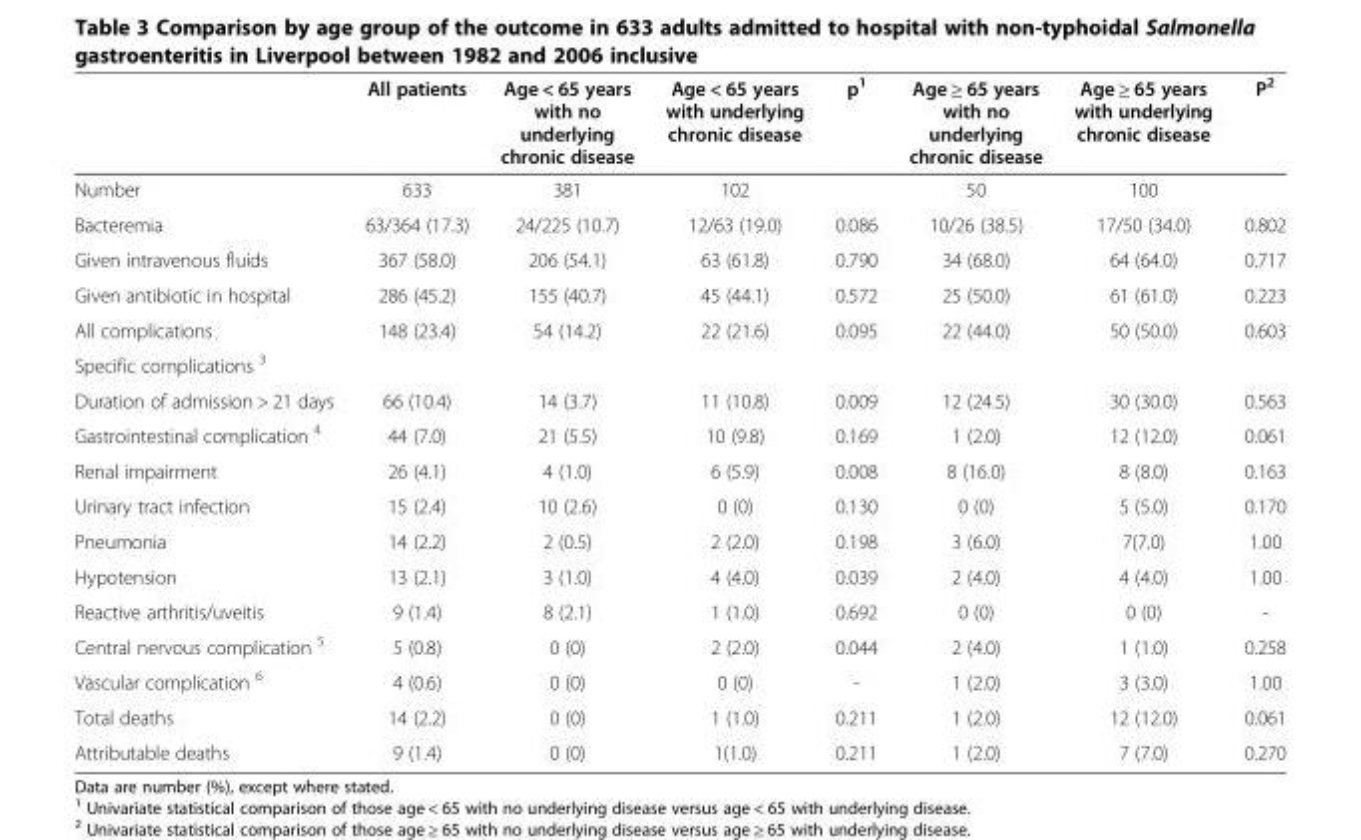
<table><thead><tr><td></td><td>All patients</td><td>Age &lt; 65 years with no underlying chronic disease</td><td>Age &lt; 65 years with underlying chronic disease</td><td>p<sup>1</sup></td><td>Age ≥ 65 years with no underlying chronic disease</td><td>Age ≥ 65 years with underlying chronic disease</td><td>P<sup>2</sup></td></tr></thead><tbody><tr><td>Number</td><td>633</td><td>381</td><td>102</td><td></td><td>50</td><td>100</td><td></td></tr><tr><td>Bacteremia</td><td>63/364 (17.3)</td><td>24/225 (10.7)</td><td>12/63 (19.0)</td><td>0.086</td><td>10/26 (38.5)</td><td>17/50 (34.0)</td><td>0.802</td></tr><tr><td>Given intravenous fluids</td><td>367 (58.0)</td><td>206 (54.1)</td><td>63 (61.8)</td><td>0.790</td><td>34 (68.0)</td><td>64 (64.0)</td><td>0.717</td></tr><tr><td>Given antibiotic in hospital</td><td>286 (45.2)</td><td>155 (40.7)</td><td>45 (44.1)</td><td>0.572</td><td>25 (50.0)</td><td>61 (61.0)</td><td>0.223</td></tr><tr><td>All complications</td><td>148 (23.4)</td><td>54 (14.2)</td><td>22 (21.6)</td><td>0.095</td><td>22 (44.0)</td><td>50 (50.0)</td><td>0.603</td></tr><tr><td colspan="8">Specific complications <sup>3</sup></td></tr><tr><td>Duration of admission &gt; 21 days</td><td>66 (10.4)</td><td>14 (3.7)</td><td>11 (10.8)</td><td>0.009</td><td>12 (24.5)</td><td>30 (30.0)</td><td>0.563</td></tr><tr><td>Gastrointestinal complication <sup>4</sup></td><td>44 (7.0)</td><td>21 (5.5)</td><td>10 (9.8)</td><td>0.169</td><td>1 (2.0)</td><td>12 (12.0)</td><td>0.061</td></tr><tr><td>Renal impairment</td><td>26 (4.1)</td><td>4 (1.0)</td><td>6 (5.9)</td><td>0.008</td><td>8 (16.0)</td><td>8 (8.0)</td><td>0.163</td></tr><tr><td>Urinary tract infection</td><td>15 (2.4)</td><td>10 (2.6)</td><td>0 (0)</td><td>0.130</td><td>0 (0)</td><td>5 (5.0)</td><td>0.170</td></tr><tr><td>Pneumonia</td><td>14 (2.2)</td><td>2 (0.5)</td><td>2 (2.0)</td><td>0.198</td><td>3 (6.0)</td><td>7(7.0)</td><td>1.00</td></tr><tr><td>Hypotension</td><td>13 (2.1)</td><td>3 (1.0)</td><td>4 (4.0)</td><td>0.039</td><td>2 (4.0)</td><td>4 (4.0)</td><td>1.00</td></tr><tr><td>Reactive arthritis/uveitis</td><td>9 (1.4)</td><td>8 (2.1)</td><td>1 (1.0)</td><td>0.692</td><td>0 (0)</td><td>0 (0)</td><td>-</td></tr><tr><td>Central nervous complication <sup>5</sup></td><td>5 (0.8)</td><td>0 (0)</td><td>2 (2.0)</td><td>0.044</td><td>2 (4.0)</td><td>1 (1.0)</td><td>0.258</td></tr><tr><td>Vascular complication <sup>6</sup></td><td>4 (0.6)</td><td>0 (0)</td><td>0 (0)</td><td>-</td><td>1 (2.0)</td><td>3 (3.0)</td><td>1.00</td></tr><tr><td>Total deaths</td><td>14 (2.2)</td><td>0 (0)</td><td>1 (1.0)</td><td>0.211</td><td>1 (2.0)</td><td>12 (12.0)</td><td>0.061</td></tr><tr><td>Attributable deaths</td><td>9 (1.4)</td><td>0 (0)</td><td>1(1.0)</td><td>0.211</td><td>1 (2.0)</td><td>7 (7.0)</td><td>0.270</td></tr></tbody></table>